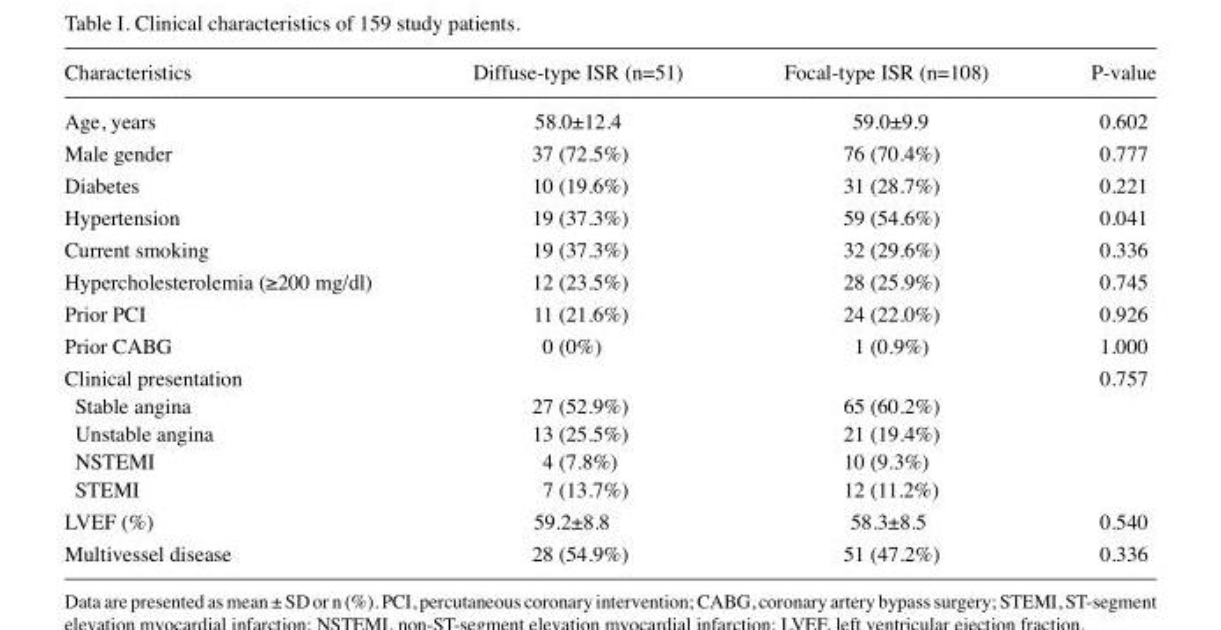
<table><thead><tr><td>Characteristics</td><td>Diffuse-type ISR (n=51)</td><td>Focal-type ISR (n=108)</td><td>P-value</td></tr></thead><tbody><tr><td>Age, years</td><td>58.0±12.4</td><td>59.0±9.9</td><td>0.602</td></tr><tr><td>Male gender</td><td>37 (72.5%)</td><td>76 (70.4%)</td><td>0.777</td></tr><tr><td>Diabetes</td><td>10 (19.6%)</td><td>31 (28.7%)</td><td>0.221</td></tr><tr><td>Hypertension</td><td>19 (37.3%)</td><td>59 (54.6%)</td><td>0.041</td></tr><tr><td>Current smoking</td><td>19 (37.3%)</td><td>32 (29.6%)</td><td>0.336</td></tr><tr><td>Hypercholesterolemia (≥200 mg/dl)</td><td>12 (23.5%)</td><td>28 (25.9%)</td><td>0.745</td></tr><tr><td>Prior PCI</td><td>11 (21.6%)</td><td>24 (22.0%)</td><td>0.926</td></tr><tr><td>Prior CABG</td><td>0 (0%)</td><td>1 (0.9%)</td><td>1.000</td></tr><tr><td>Clinical presentation</td><td></td><td></td><td>0.757</td></tr><tr><td>Stable angina</td><td>27 (52.9%)</td><td>65 (60.2%)</td><td></td></tr><tr><td>Unstable angina</td><td>13 (25.5%)</td><td>21 (19.4%)</td><td></td></tr><tr><td>NSTEMI</td><td>4 (7.8%)</td><td>10 (9.3%)</td><td></td></tr><tr><td>STEMI</td><td>7 (13.7%)</td><td>12 (11.2%)</td><td></td></tr><tr><td>LVEF (%)</td><td>59.2±8.8</td><td>58.3±8.5</td><td>0.540</td></tr><tr><td>Multivessel disease</td><td>28 (54.9%)</td><td>51 (47.2%)</td><td>0.336</td></tr></tbody></table>